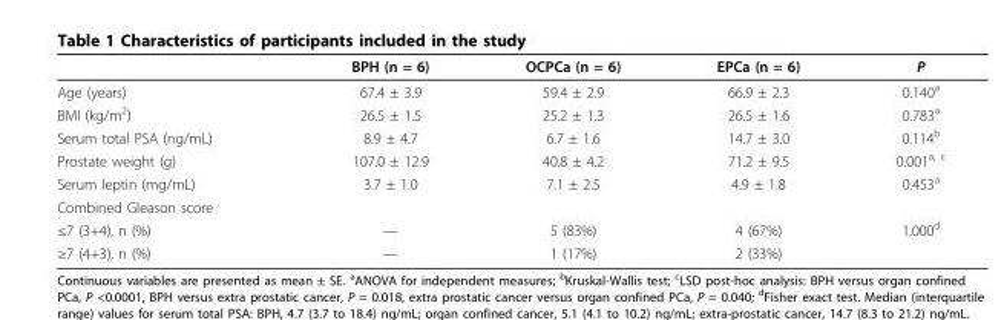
<table><thead><tr><td></td><td>BPH (n = 6)</td><td>OCPCa (n = 6)</td><td>EPCa (n = 6)</td><td>P</td></tr></thead><tbody><tr><td>Age (years)</td><td>67.4 ± 3.9</td><td>59.4 ± 2.9</td><td>66.9 ± 2.3</td><td>0.140<sup>a</sup></td></tr><tr><td>BMI (kg/m<sup>2</sup>)</td><td>26.5 ± 1.5</td><td>25.2 ± 1.3</td><td>26.5 ± 1.6</td><td>0.783<sup>a</sup></td></tr><tr><td>Serum total PSA (ng/mL)</td><td>8.9 ± 4.7</td><td>6.7 ± 1.6</td><td>14.7 ± 3.0</td><td>0.114<sup>b</sup></td></tr><tr><td>Prostate weight (g)</td><td>107.0 ± 12.9</td><td>40.8 ± 4.2</td><td>71.2 ± 9.5</td><td>0.001<sup>a, c</sup></td></tr><tr><td>Serum leptin (mg/mL)</td><td>3.7 ± 1.0</td><td>7.1 ± 2.5</td><td>4.9 ± 1.8</td><td>0.453<sup>a</sup></td></tr><tr><td colspan="5">Combined Gleason score</td></tr><tr><td>≤7 (3+4), n (%)</td><td>—</td><td>5 (83%)</td><td>4 (67%)</td><td>1.000<sup>d</sup></td></tr><tr><td>≥7 (4+3), n (%)</td><td>—</td><td>1 (17%)</td><td>2 (33%)</td><td></td></tr></tbody></table>